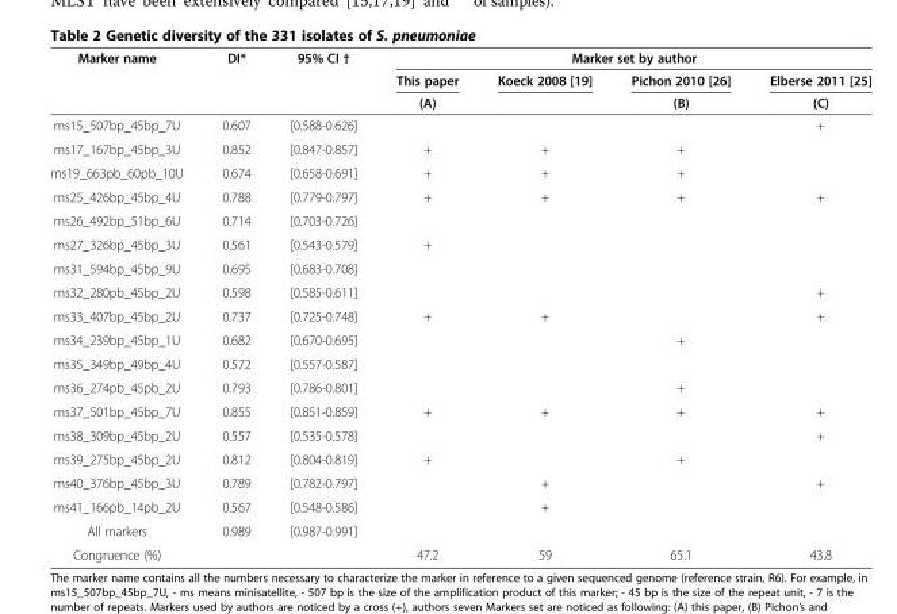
<table><thead><tr><td rowspan="3">Marker name</td><td rowspan="3">DI*</td><td rowspan="3">95% CI †</td><td colspan="4">Marker set by author</td></tr><tr><td rowspan="2">This paper (A)</td><td rowspan="2">Koeck 2008 [19]</td><td rowspan="2">Pichon 2010 [26] (B)</td><td rowspan="2">Elberse 2011 (C)</td></tr><tr></tr></thead><tbody><tr><td>ms15_507bp_45bp_7U</td><td>0.607</td><td>[0.588-0.626]</td><td></td><td></td><td></td><td>+</td></tr><tr><td>ms17_167bp_45bp_3U</td><td>0.852</td><td>[0.847-0.857]</td><td>+</td><td>+</td><td>+</td><td></td></tr><tr><td>ms19_663pb_60pb_10U</td><td>0.674</td><td>[0.658-0.691]</td><td>+</td><td>+</td><td>+</td><td></td></tr><tr><td>ms25_426bp_45bp_4U</td><td>0.788</td><td>[0.779-0.797]</td><td>+</td><td>+</td><td>+</td><td>+</td></tr><tr><td>ms26_492bp_51bp_6U</td><td>0.714</td><td>[0.703-0.726]</td><td></td><td></td><td></td><td></td></tr><tr><td>ms27_326bp_45bp_3U</td><td>0.561</td><td>[0.543-0.579]</td><td>+</td><td></td><td></td><td></td></tr><tr><td>ms31_594bp_45bp_9U</td><td>0.695</td><td>[0.683-0.708]</td><td></td><td></td><td></td><td></td></tr><tr><td>ms32_280pb_45bp_2U</td><td>0.598</td><td>[0.585-0.611]</td><td></td><td></td><td></td><td>+</td></tr><tr><td>ms33_407bp_45bp_2U</td><td>0.737</td><td>[0.725-0.748]</td><td>+</td><td>+</td><td></td><td>+</td></tr><tr><td>ms34_239bp_45bp_1U</td><td>0.682</td><td>[0.670-0.695]</td><td></td><td></td><td>+</td><td></td></tr><tr><td>ms35_349bp_49bp_4U</td><td>0.572</td><td>[0.557-0.587]</td><td></td><td></td><td></td><td></td></tr><tr><td>ms36_274pb_45pb_2U</td><td>0.793</td><td>[0.786-0.801]</td><td></td><td></td><td>+</td><td></td></tr><tr><td>ms37_501bp_45bp_7U</td><td>0.855</td><td>[0.851-0.859]</td><td>+</td><td>+</td><td>+</td><td>+</td></tr><tr><td>ms38_309bp_45bp_2U</td><td>0.557</td><td>[0.535-0.578]</td><td></td><td></td><td></td><td>+</td></tr><tr><td>ms39_275bp_45bp_2U</td><td>0.812</td><td>[0.804-0.819]</td><td>+</td><td></td><td>+</td><td></td></tr><tr><td>ms40_376bp_45bp_3U</td><td>0.789</td><td>[0.782-0.797]</td><td></td><td>+</td><td></td><td>+</td></tr><tr><td>ms41_166pb_14pb_2U</td><td>0.567</td><td>[0.548-0.586]</td><td></td><td>+</td><td></td><td></td></tr><tr><td>All markers</td><td>0.989</td><td>[0.987-0.991]</td><td></td><td></td><td></td><td></td></tr><tr><td>Congruence (%)</td><td></td><td></td><td>47.2</td><td>59</td><td>65.1</td><td>43.8</td></tr></tbody></table>